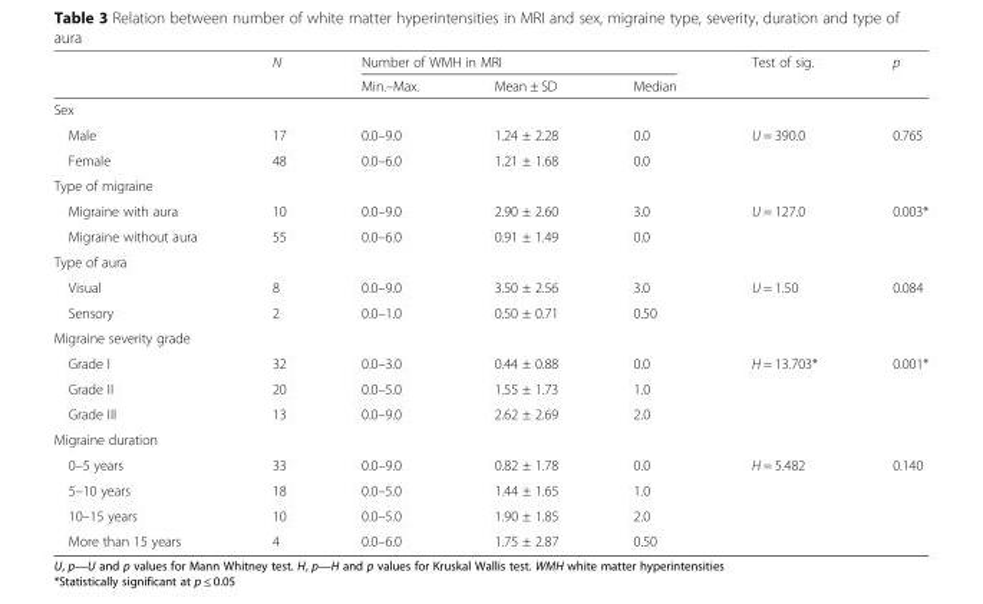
<table><thead><tr><td rowspan="2"></td><td rowspan="2">N</td><td colspan="3">Number of WMH in MRI</td><td rowspan="2">Test of sig.</td><td rowspan="2">p</td></tr><tr><td>Min.–Max.</td><td>Mean ± SD</td><td>Median</td></tr></thead><tbody><tr><td colspan="7">Sex</td></tr><tr><td>Male</td><td>17</td><td>0.0–9.0</td><td>1.24 ± 2.28</td><td>0.0</td><td rowspan="2">U = 390.0</td><td rowspan="2">0.765</td></tr><tr><td>Female</td><td>48</td><td>0.0–6.0</td><td>1.21 ± 1.68</td><td>0.0</td></tr><tr><td colspan="7">Type of migraine</td></tr><tr><td>Migraine with aura</td><td>10</td><td>0.0–9.0</td><td>2.90 ± 2.60</td><td>3.0</td><td rowspan="2">U = 127.0</td><td rowspan="2">0.003*</td></tr><tr><td>Migraine without aura</td><td>55</td><td>0.0–6.0</td><td>0.91 ± 1.49</td><td>0.0</td></tr><tr><td colspan="7">Type of aura</td></tr><tr><td>Visual</td><td>8</td><td>0.0–9.0</td><td>3.50 ± 2.56</td><td>3.0</td><td rowspan="2">U = 1.50</td><td rowspan="2">0.084</td></tr><tr><td>Sensory</td><td>2</td><td>0.0–1.0</td><td>0.50 ± 0.71</td><td>0.50</td></tr><tr><td colspan="7">Migraine severity grade</td></tr><tr><td>Grade I</td><td>32</td><td>0.0–3.0</td><td>0.44 ± 0.88</td><td>0.0</td><td rowspan="3">H = 13.703*</td><td rowspan="3">0.001*</td></tr><tr><td>Grade II</td><td>20</td><td>0.0–5.0</td><td>1.55 ± 1.73</td><td>1.0</td></tr><tr><td>Grade III</td><td>13</td><td>0.0–9.0</td><td>2.62 ± 2.69</td><td>2.0</td></tr><tr><td colspan="7">Migraine duration</td></tr><tr><td>0–5 years</td><td>33</td><td>0.0–9.0</td><td>0.82 ± 1.78</td><td>0.0</td><td rowspan="4">H = 5.482</td><td rowspan="4">0.140</td></tr><tr><td>5–10 years</td><td>18</td><td>0.0–5.0</td><td>1.44 ± 1.65</td><td>1.0</td></tr><tr><td>10–15 years</td><td>10</td><td>0.0–5.0</td><td>1.90 ± 1.85</td><td>2.0</td></tr><tr><td>More than 15 years</td><td>4</td><td>0.0–6.0</td><td>1.75 ± 2.87</td><td>0.50</td></tr></tbody></table>